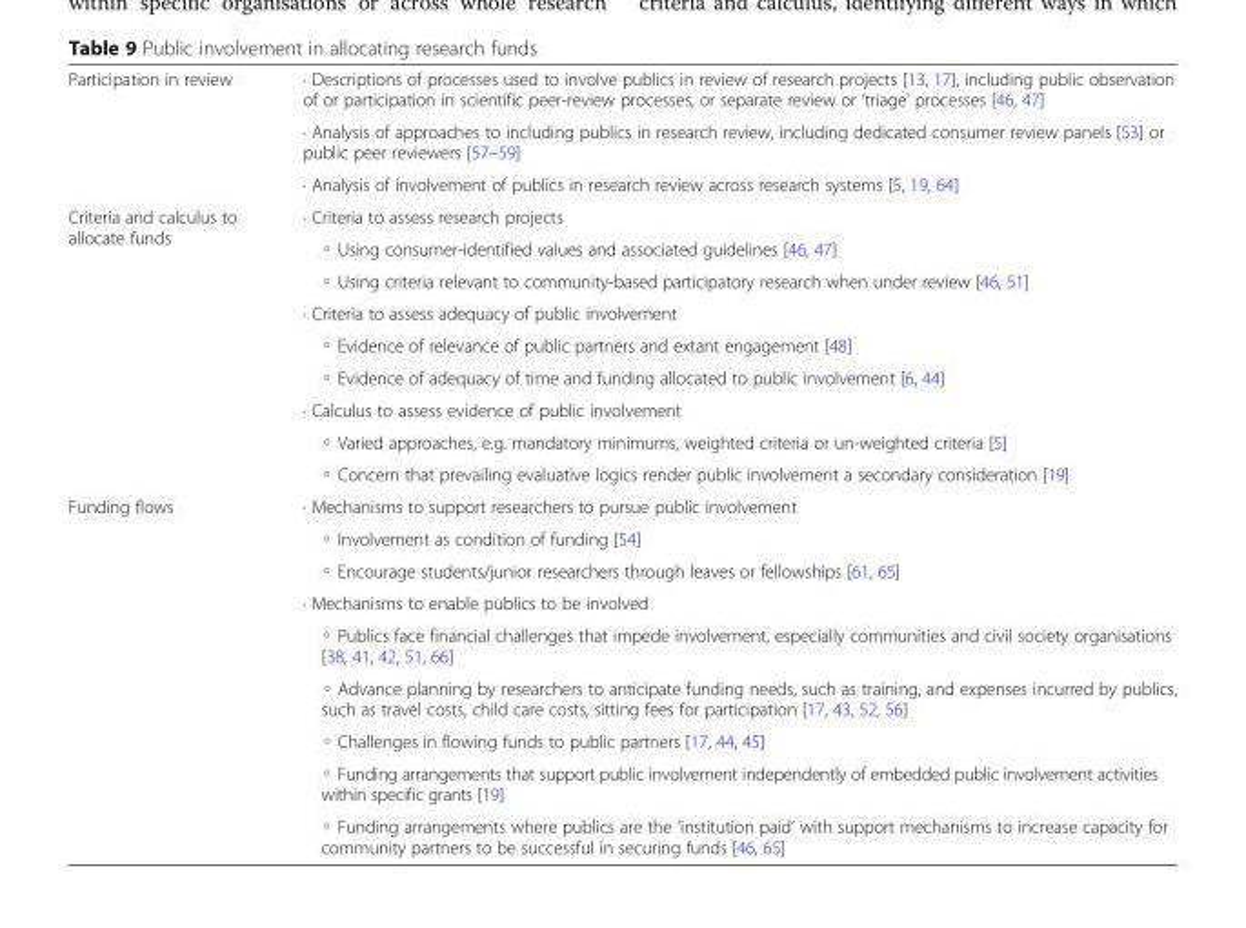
<table><tbody><tr><td rowspan="3">Participation in review</td><td>∙ Descriptions of processes used to involve publics in review of research projects [13, 17], including public observation of or participation in scientific peer-review processes, or separate review or ‘triage’ processes [46, 47]</td></tr><tr><td>∙ Analysis of approaches to including publics in research review, including dedicated consumer review panels [53] or public peer reviewers [57–59]</td></tr><tr><td>∙ Analysis of involvement of publics in research review across research systems [5, 19, 64]</td></tr><tr><td rowspan="9">Criteria and calculus to allocate funds</td><td>∙ Criteria to assess research projects</td></tr><tr><td>◦ Using consumer-identified values and associated guidelines [46, 47]</td></tr><tr><td>◦ Using criteria relevant to community-based participatory research when under review [46, 51]</td></tr><tr><td>∙ Criteria to assess adequacy of public involvement</td></tr><tr><td>◦ Evidence of relevance of public partners and extant engagement [48]</td></tr><tr><td>◦ Evidence of adequacy of time and funding allocated to public involvement [6, 44]</td></tr><tr><td>∙ Calculus to assess evidence of public involvement</td></tr><tr><td>◦ Varied approaches, e.g. mandatory minimums, weighted criteria or un-weighted criteria [5]</td></tr><tr><td>◦ Concern that prevailing evaluative logics render public involvement a secondary consideration [19]</td></tr><tr><td rowspan="9">Funding flows</td><td>∙ Mechanisms to support researchers to pursue public involvement</td></tr><tr><td>◦ Involvement as condition of funding [54]</td></tr><tr><td>◦ Encourage students/junior researchers through leaves or fellowships [61, 65]</td></tr><tr><td>∙ Mechanisms to enable publics to be involved</td></tr><tr><td>◦ Publics face financial challenges that impede involvement, especially communities and civil society organisations [38, 41, 42, 51, 66]</td></tr><tr><td>◦ Advance planning by researchers to anticipate funding needs, such as training, and expenses incurred by publics, such as travel costs, child care costs, sitting fees for participation [17, 43, 52, 56]</td></tr><tr><td>◦ Challenges in flowing funds to public partners [17, 44, 45]</td></tr><tr><td>◦ Funding arrangements that support public involvement independently of embedded public involvement activities within specific grants [19]</td></tr><tr><td>◦ Funding arrangements where publics are the ‘institution paid’ with support mechanisms to increase capacity for community partners to be successful in securing funds [46, 65]</td></tr></tbody></table>